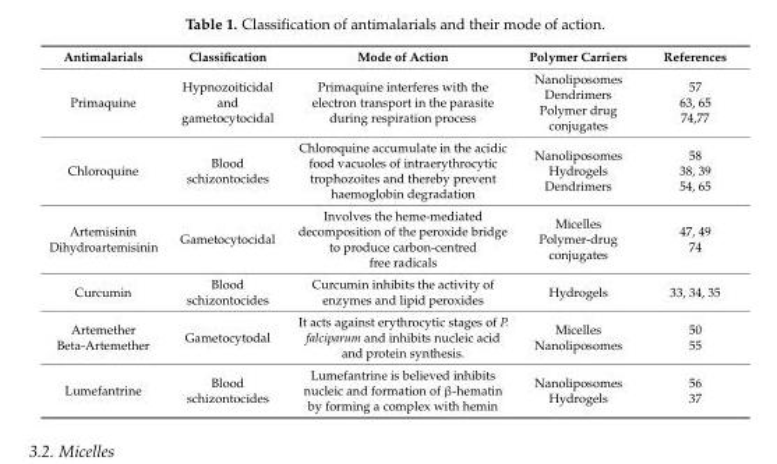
<table><thead><tr><td>Antimalarials</td><td>Classification</td><td>Mode of Action</td><td>Polymer Carriers</td><td>References</td></tr></thead><tbody><tr><td>Primaquine</td><td>Hypnozoiticidal and gametocytocidal</td><td>Primaquine interferes with the electron transport in the parasite during respiration process</td><td>Nanoliposomes Dendrimers Polymer drug conjugates</td><td>57 63, 65 74,77</td></tr><tr><td>Chloroquine</td><td>Blood schizontocides</td><td>Chloroquine accumulate in the acidic food vacuoles of intraerythrocytic trophozoites and thereby prevent haemoglobin degradation</td><td>Nanoliposomes Hydrogels Dendrimers</td><td>58 38, 39 54, 65</td></tr><tr><td>Artemisinin Dihydroartemisinin</td><td>Gametocytocidal</td><td>Involves the heme-mediated decomposition of the peroxide bridge to produce carbon-centred free radicals</td><td>Micelles Polymer-drug conjugates</td><td>47, 49 74</td></tr><tr><td>Curcumin</td><td>Blood schizontocides</td><td>Curcumin inhibits the activity of enzymes and lipid peroxides</td><td>Hydrogels</td><td>33, 34, 35</td></tr><tr><td>Artemether Beta-Artemether</td><td>Gametocytodal</td><td>It acts against erythrocytic stages of P. falciparum and inhibits nucleic acid and protein synthesis.</td><td>Micelles Nanoliposomes</td><td>50 55</td></tr><tr><td>Lumefantrine</td><td>Blood schizontocides</td><td>Lumefantrine is believed inhibits nucleic and formation of β-hematin by forming a complex with hemin</td><td>Nanoliposomes Hydrogels</td><td>56 37</td></tr></tbody></table>